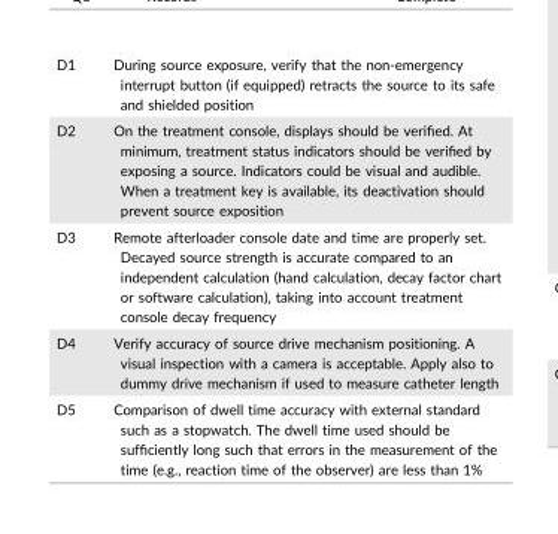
<table><tbody><tr><td>D1</td><td>During source exposure, verify that the non-emergency interrupt button (if equipped) retracts the source to its safe and shielded position</td></tr><tr><td>D2</td><td>On the treatment console, displays should be verified. At minimum, treatment status indicators should be verified by exposing a source. Indicators could be visual and audible. When a treatment key is available, its deactivation should prevent source exposition</td></tr><tr><td>D3</td><td>Remote afterloader console date and time are properly set. Decayed source strength is accurate compared to an independent calculation (hand calculation, decay factor chart or software calculation), taking into account treatment console decay frequency</td></tr><tr><td>D4</td><td>Verify accuracy of source drive mechanism positioning. A visual inspection with a camera is acceptable. Apply also to dummy drive mechanism if used to measure catheter length</td></tr><tr><td>D5</td><td>Comparison of dwell time accuracy with external standard such as a stopwatch. The dwell time used should be sufficiently long such that errors in the measurement of the time (e.g., reaction time of the observer) are less than 1%</td></tr></tbody></table>